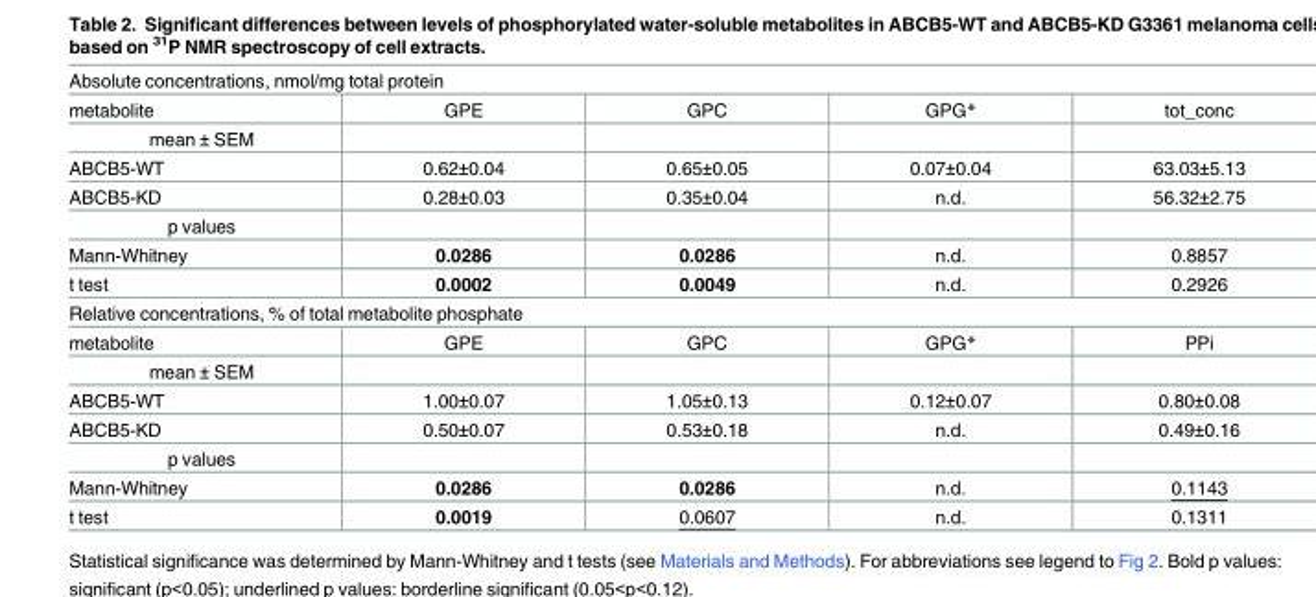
<table><tbody><tr><td colspan="5">Absolute concentrations, nmol/mg total protein</td></tr><tr><td>metabolite</td><td>GPE</td><td>GPC</td><td>GPG*</td><td>tot_conc</td></tr><tr><td colspan="5">mean ± SEM</td></tr><tr><td>ABCB5-WT</td><td>0.62±0.04</td><td>0.65±0.05</td><td>0.07±0.04</td><td>63.03±5.13</td></tr><tr><td>ABCB5-KD</td><td>0.28±0.03</td><td>0.35±0.04</td><td>n.d.</td><td>56.32±2.75</td></tr><tr><td colspan="5">p values</td></tr><tr><td>Mann-Whitney</td><td>0.0286</td><td>0.0286</td><td>n.d.</td><td>0.8857</td></tr><tr><td>t test</td><td>0.0002</td><td>0.0049</td><td>n.d.</td><td>0.2926</td></tr><tr><td colspan="5">Relative concentrations, % of total metabolite phosphate</td></tr><tr><td>metabolite</td><td>GPE</td><td>GPC</td><td>GPG*</td><td>PPi</td></tr><tr><td colspan="5">mean ± SEM</td></tr><tr><td>ABCB5-WT</td><td>1.00±0.07</td><td>1.05±0.13</td><td>0.12±0.07</td><td>0.80±0.08</td></tr><tr><td>ABCB5-KD</td><td>0.50±0.07</td><td>0.53±0.18</td><td>n.d.</td><td>0.49±0.16</td></tr><tr><td colspan="5">p values</td></tr><tr><td>Mann-Whitney</td><td>0.0286</td><td>0.0286</td><td>n.d.</td><td>0.1143</td></tr><tr><td>t test</td><td>0.0019</td><td>0.0607</td><td>n.d.</td><td>0.1311</td></tr></tbody></table>